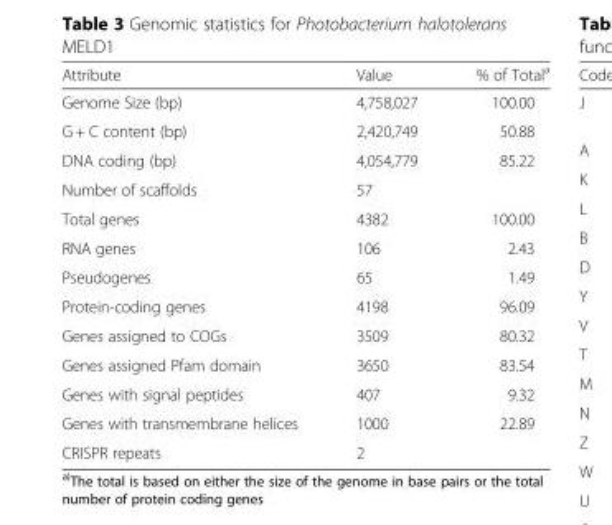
<table><thead><tr><td>Attribute</td><td>Value</td><td>% of Total<sup>a</sup></td></tr></thead><tbody><tr><td>Genome Size (bp)</td><td>4,758,027</td><td>100.00</td></tr><tr><td>G + C content (bp)</td><td>2,420,749</td><td>50.88</td></tr><tr><td>DNA coding (bp)</td><td>4,054,779</td><td>85.22</td></tr><tr><td>Number of scaffolds</td><td>57</td><td></td></tr><tr><td>Total genes</td><td>4382</td><td>100.00</td></tr><tr><td>RNA genes</td><td>106</td><td>2.43</td></tr><tr><td>Pseudogenes</td><td>65</td><td>1.49</td></tr><tr><td>Protein-coding genes</td><td>4198</td><td>96.09</td></tr><tr><td>Genes assigned to COGs</td><td>3509</td><td>80.32</td></tr><tr><td>Genes assigned Pfam domain</td><td>3650</td><td>83.54</td></tr><tr><td>Genes with signal peptides</td><td>407</td><td>9.32</td></tr><tr><td>Genes with transmembrane helices</td><td>1000</td><td>22.89</td></tr><tr><td>CRISPR repeats</td><td>2</td><td></td></tr></tbody></table>